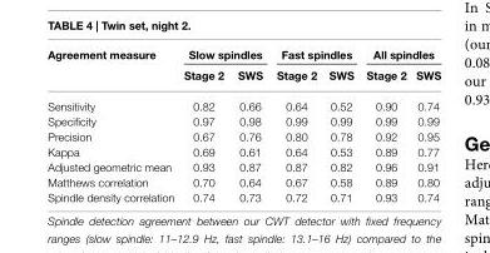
<table><thead><tr><td rowspan="2">Agreement measure</td><td colspan="2">Slow spindles</td><td colspan="2">Fast spindles</td><td colspan="2">All spindles</td></tr><tr><td>Stage 2</td><td>SWS</td><td>Stage 2</td><td>SWS</td><td>Stage 2</td><td>SWS</td></tr></thead><tbody><tr><td>Sensitivity</td><td>0.82</td><td>0.66</td><td>0.64</td><td>0.52</td><td>0.90</td><td>0.74</td></tr><tr><td>Specificity</td><td>0.97</td><td>0.98</td><td>0.99</td><td>0.99</td><td>0.99</td><td>0.99</td></tr><tr><td>Precision</td><td>0.67</td><td>0.76</td><td>0.80</td><td>0.78</td><td>0.92</td><td>0.95</td></tr><tr><td>Kappa</td><td>0.69</td><td>0.61</td><td>0.64</td><td>0.53</td><td>0.89</td><td>0.77</td></tr><tr><td>Adjusted geometric mean</td><td>0.93</td><td>0.87</td><td>0.87</td><td>0.82</td><td>0.96</td><td>0.91</td></tr><tr><td>Matthews correlation</td><td>0.70</td><td>0.64</td><td>0.67</td><td>0.58</td><td>0.89</td><td>0.80</td></tr><tr><td>Spindle density correlation</td><td>0.74</td><td>0.73</td><td>0.72</td><td>0.71</td><td>0.93</td><td>0.74</td></tr></tbody></table>